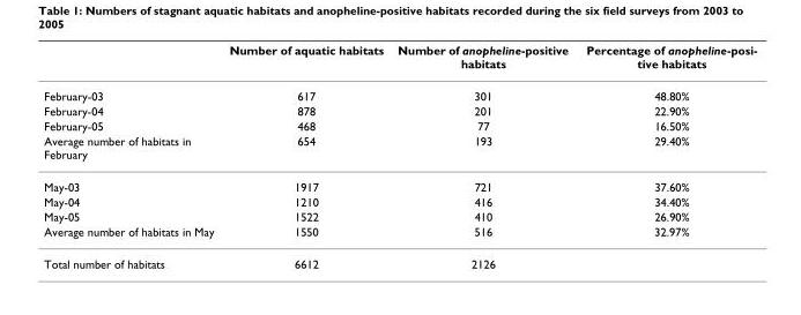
<table><thead><tr><td></td><td>Number of aquatic habitats</td><td>Number of anopheline-positive habitats</td><td>Percentage of anopheline-posi- tive habitats</td></tr></thead><tbody><tr><td>February-03</td><td>617</td><td>301</td><td>48.80%</td></tr><tr><td>February-04</td><td>878</td><td>201</td><td>22.90%</td></tr><tr><td>February-05</td><td>468</td><td>77</td><td>16.50%</td></tr><tr><td>Average number of habitats in February</td><td>654</td><td>193</td><td>29.40%</td></tr><tr><td>May-03</td><td>1917</td><td>721</td><td>37.60%</td></tr><tr><td>May-04</td><td>1210</td><td>416</td><td>34.40%</td></tr><tr><td>May-05</td><td>1522</td><td>410</td><td>26.90%</td></tr><tr><td>Average number of habitats in May</td><td>1550</td><td>516</td><td>32.97%</td></tr><tr><td>Total number of habitats</td><td>6612</td><td>2126</td><td></td></tr></tbody></table>